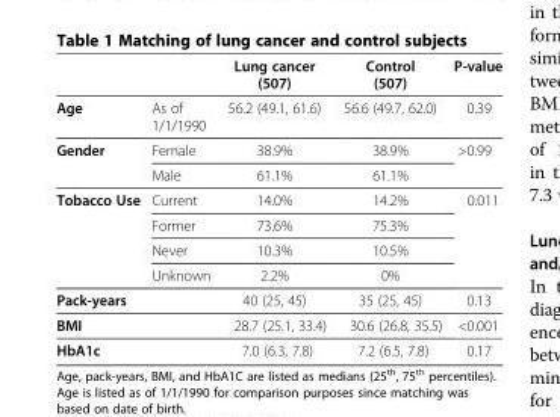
<table><thead><tr><td></td><td></td><td>Lung cancer (507)</td><td>Control (507)</td><td>P-value</td></tr></thead><tbody><tr><td>Age</td><td>As of 1/1/1990</td><td>56.2 (49.1, 61.6)</td><td>56.6 (49.7, 62.0)</td><td>0.39</td></tr><tr><td rowspan="2">Gender</td><td>Female</td><td>38.9%</td><td>38.9%</td><td>&gt;0.99</td></tr><tr><td>Male</td><td>61.1%</td><td>61.1%</td><td></td></tr><tr><td rowspan="4">Tobacco Use</td><td>Current</td><td>14.0%</td><td>14.2%</td><td>0.011</td></tr><tr><td>Former</td><td>73.6%</td><td>75.3%</td><td></td></tr><tr><td>Never</td><td>10.3%</td><td>10.5%</td><td></td></tr><tr><td>Unknown</td><td>2.2%</td><td>0%</td><td></td></tr><tr><td>Pack-years</td><td></td><td>40 (25, 45)</td><td>35 (25, 45)</td><td>0.13</td></tr><tr><td>BMI</td><td></td><td>28.7 (25.1, 33.4)</td><td>30.6 (26.8, 35.5)</td><td>&lt;0.001</td></tr><tr><td>HbA1c</td><td></td><td>7.0 (6.3, 7.8)</td><td>7.2 (6.5, 7.8)</td><td>0.17</td></tr></tbody></table>